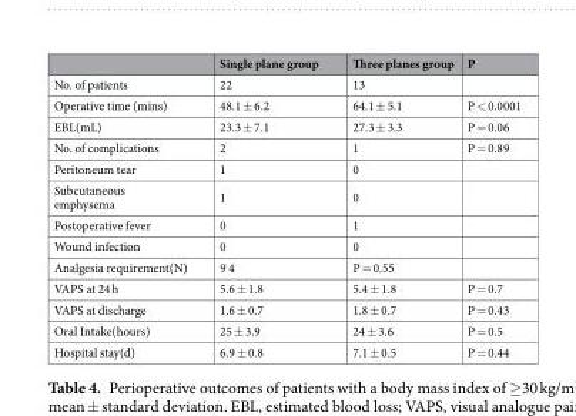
<table><thead><tr><td></td><td>Single plane group</td><td>Three planes group</td><td>P</td></tr></thead><tbody><tr><td>No. of patients</td><td>22</td><td>13</td><td></td></tr><tr><td>Operative time (mins)</td><td>48.1 ± 6.2</td><td>64.1 ± 5.1</td><td>P &lt; 0.0001</td></tr><tr><td>EBL(mL)</td><td>23.3 ± 7.1</td><td>27.3 ± 3.3</td><td>P = 0.06</td></tr><tr><td>No. of complications</td><td>2</td><td>1</td><td>P = 0.89</td></tr><tr><td>Peritoneum tear</td><td>1</td><td>0</td><td></td></tr><tr><td>Subcutaneous emphysema</td><td>1</td><td>0</td><td></td></tr><tr><td>Postoperative fever</td><td>0</td><td>1</td><td></td></tr><tr><td>Wound infection</td><td>0</td><td>0</td><td></td></tr><tr><td>Analgesia requirement(N)</td><td>9 4</td><td>P = 0.55</td><td></td></tr><tr><td>VAPS at 24 h</td><td>5.6 ± 1.8</td><td>5.4 ± 1.8</td><td>P = 0.7</td></tr><tr><td>VAPS at discharge</td><td>1.6 ± 0.7</td><td>1.8 ± 0.7</td><td>P = 0.43</td></tr><tr><td>Oral Intake(hours)</td><td>25 ± 3.9</td><td>24 ± 3.6</td><td>P = 0.5</td></tr><tr><td>Hospital stay(d)</td><td>6.9 ± 0.8</td><td>7.1 ± 0.5</td><td>P = 0.44</td></tr></tbody></table>